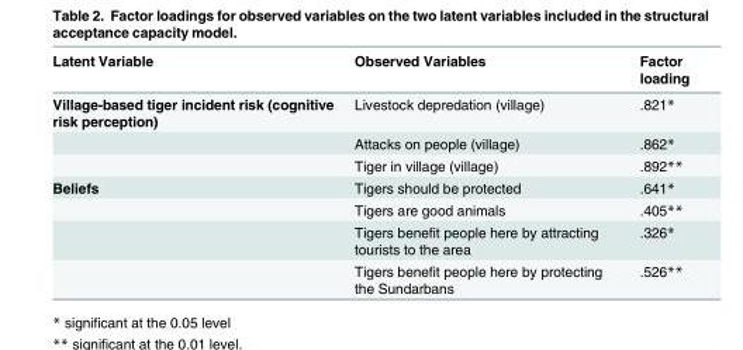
<table><thead><tr><td>Latent Variable</td><td>Observed Variables</td><td>Factor loading</td></tr></thead><tbody><tr><td rowspan="3">Village-based tiger incident risk (cognitive risk perception)</td><td>Livestock depredation (village)</td><td>.821*</td></tr><tr><td>Attacks on people (village)</td><td>.862*</td></tr><tr><td>Tiger in village (village)</td><td>.892**</td></tr><tr><td rowspan="4">Beliefs</td><td>Tigers should be protected</td><td>.641*</td></tr><tr><td>Tigers are good animals</td><td>.405**</td></tr><tr><td>Tigers benefit people here by attracting tourists to the area</td><td>.326*</td></tr><tr><td>Tigers benefit people here by protecting the Sundarbans</td><td>.526**</td></tr></tbody></table>